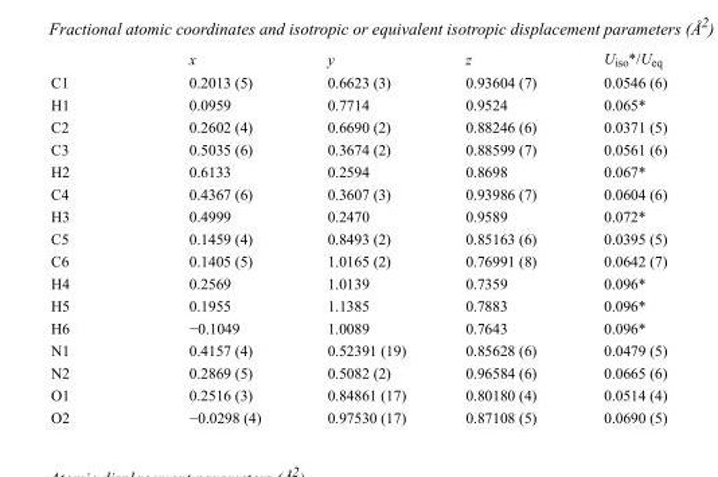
<table><thead><tr><td></td><td>x</td><td>y</td><td>z</td><td>U<sub>iso</sub>*/U<sub>eq</sub></td></tr></thead><tbody><tr><td>C1</td><td>0.2013 (5)</td><td>0.6623 (3)</td><td>0.93604 (7)</td><td>0.0546 (6)</td></tr><tr><td>H1</td><td>0.0959</td><td>0.7714</td><td>0.9524</td><td>0.065*</td></tr><tr><td>C2</td><td>0.2602 (4)</td><td>0.6690 (2)</td><td>0.88246 (6)</td><td>0.0371 (5)</td></tr><tr><td>C3</td><td>0.5035 (6)</td><td>0.3674 (2)</td><td>0.88599 (7)</td><td>0.0561 (6)</td></tr><tr><td>H2</td><td>0.6133</td><td>0.2594</td><td>0.8698</td><td>0.067*</td></tr><tr><td>C4</td><td>0.4367 (6)</td><td>0.3607 (3)</td><td>0.93986 (7)</td><td>0.0604 (6)</td></tr><tr><td>H3</td><td>0.4999</td><td>0.2470</td><td>0.9589</td><td>0.072*</td></tr><tr><td>C5</td><td>0.1459 (4)</td><td>0.8493 (2)</td><td>0.85163 (6)</td><td>0.0395 (5)</td></tr><tr><td>C6</td><td>0.1405 (5)</td><td>1.0165 (2)</td><td>0.76991 (8)</td><td>0.0642 (7)</td></tr><tr><td>H4</td><td>0.2569</td><td>1.0139</td><td>0.7359</td><td>0.096*</td></tr><tr><td>H5</td><td>0.1955</td><td>1.1385</td><td>0.7883</td><td>0.096*</td></tr><tr><td>H6</td><td>−0.1049</td><td>1.0089</td><td>0.7643</td><td>0.096*</td></tr><tr><td>N1</td><td>0.4157 (4)</td><td>0.52391 (19)</td><td>0.85628 (6)</td><td>0.0479 (5)</td></tr><tr><td>N2</td><td>0.2869 (5)</td><td>0.5082 (2)</td><td>0.96584 (6)</td><td>0.0665 (6)</td></tr><tr><td>O1</td><td>0.2516 (3)</td><td>0.84861 (17)</td><td>0.80180 (4)</td><td>0.0514 (4)</td></tr><tr><td>O2</td><td>−0.0298 (4)</td><td>0.97530 (17)</td><td>0.87108 (5)</td><td>0.0690 (5)</td></tr></tbody></table>